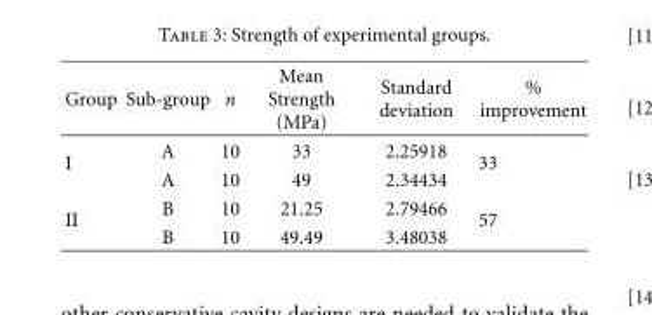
<table><thead><tr><td>Group</td><td>Sub-group</td><td>n</td><td>Mean Strength (MPa)</td><td>Standard deviation</td><td>% improvement</td></tr></thead><tbody><tr><td rowspan="2">I</td><td>A</td><td>10</td><td>33</td><td>2.25918</td><td rowspan="2">33</td></tr><tr><td>A</td><td>10</td><td>49</td><td>2.34434</td></tr><tr><td rowspan="2">II</td><td>B</td><td>10</td><td>21.25</td><td>2.79466</td><td rowspan="2">57</td></tr><tr><td>B</td><td>10</td><td>49.49</td><td>3.48038</td></tr></tbody></table>